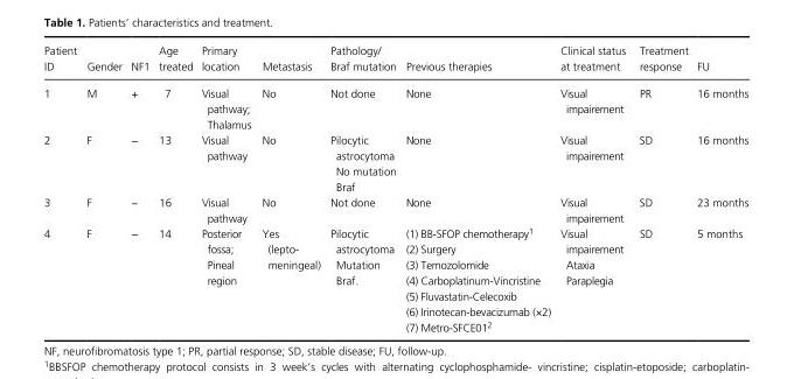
<table><thead><tr><td>Patient ID</td><td>Gender</td><td>NF1</td><td>Age treated</td><td>Primary location</td><td>Metastasis</td><td>Pathology/ Braf mutation</td><td>Previous therapies</td><td>Clinical status at treatment</td><td>Treatment response</td><td>FU</td></tr></thead><tbody><tr><td>1</td><td>M</td><td>+</td><td>7</td><td>Visual pathway; Thalamus</td><td>No</td><td>Not done</td><td>None</td><td>Visual impairement</td><td>PR</td><td>16 months</td></tr><tr><td>2</td><td>F</td><td>−</td><td>13</td><td>Visual pathway</td><td>No</td><td>Pilocytic astrocytoma No mutation Braf</td><td>None</td><td>Visual impairement</td><td>SD</td><td>16 months</td></tr><tr><td>3</td><td>F</td><td>−</td><td>16</td><td>Visual pathway</td><td>No</td><td>Not done</td><td>None</td><td>Visual impairement</td><td>SD</td><td>23 months</td></tr><tr><td>4</td><td>F</td><td>−</td><td>14</td><td>Posterior fossa; Pineal region</td><td>Yes (lepto- meningeal)</td><td>Pilocytic astrocytoma Mutation Braf.</td><td>(1) BB- SFOP chemotherapy1 (2) Surgery (3) Temozolomide (4) Carboplatinum- Vincristine (5) Fluvastatin- Celecoxib (6) Irinotecan- bevacizumab (×2) (7) Metro- SFCE012</td><td>Visual impairement Ataxia Paraplegia</td><td>SD</td><td>5 months</td></tr></tbody></table>